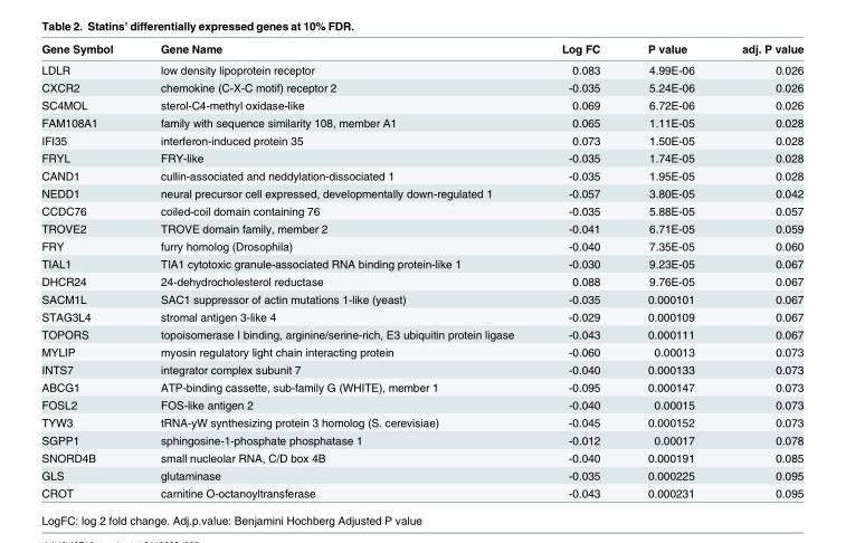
<table><thead><tr><td>Gene Symbol</td><td>Gene Name</td><td>Log FC</td><td>P value</td><td>adj. P value</td></tr></thead><tbody><tr><td>LDLR</td><td>low density lipoprotein receptor</td><td>0.083</td><td>4.99E-06</td><td>0.026</td></tr><tr><td>CXCR2</td><td>chemokine (C-X-C motif) receptor 2</td><td>-0.035</td><td>5.24E-06</td><td>0.026</td></tr><tr><td>SC4MOL</td><td>sterol-C4-methyl oxidase-like</td><td>0.069</td><td>6.72E-06</td><td>0.026</td></tr><tr><td>FAM108A1</td><td>family with sequence similarity 108, member A1</td><td>0.065</td><td>1.11E-05</td><td>0.028</td></tr><tr><td>IFI35</td><td>interferon-induced protein 35</td><td>0.073</td><td>1.50E-05</td><td>0.028</td></tr><tr><td>FRYL</td><td>FRY-like</td><td>-0.035</td><td>1.74E-05</td><td>0.028</td></tr><tr><td>CAND1</td><td>cullin-associated and neddylation-dissociated 1</td><td>-0.035</td><td>1.95E-05</td><td>0.028</td></tr><tr><td>NEDD1</td><td>neural precursor cell expressed, developmentally down-regulated 1</td><td>-0.057</td><td>3.80E-05</td><td>0.042</td></tr><tr><td>CCDC76</td><td>coiled-coil domain containing 76</td><td>-0.035</td><td>5.88E-05</td><td>0.057</td></tr><tr><td>TROVE2</td><td>TROVE domain family, member 2</td><td>-0.041</td><td>6.71E-05</td><td>0.059</td></tr><tr><td>FRY</td><td>furry homolog (Drosophila)</td><td>-0.040</td><td>7.35E-05</td><td>0.060</td></tr><tr><td>TIAL1</td><td>TIA1 cytotoxic granule-associated RNA binding protein-like 1</td><td>-0.030</td><td>9.23E-05</td><td>0.067</td></tr><tr><td>DHCR24</td><td>24-dehydrocholesterol reductase</td><td>0.088</td><td>9.76E-05</td><td>0.067</td></tr><tr><td>SACM1L</td><td>SAC1 suppressor of actin mutations 1-like (yeast)</td><td>-0.035</td><td>0.000101</td><td>0.067</td></tr><tr><td>STAG3L4</td><td>stromal antigen 3-like 4</td><td>-0.029</td><td>0.000109</td><td>0.067</td></tr><tr><td>TOPORS</td><td>topoisomerase I binding, arginine/serine-rich, E3 ubiquitin protein ligase</td><td>-0.043</td><td>0.000111</td><td>0.067</td></tr><tr><td>MYLIP</td><td>myosin regulatory light chain interacting protein</td><td>-0.060</td><td>0.00013</td><td>0.073</td></tr><tr><td>INTS7</td><td>integrator complex subunit 7</td><td>-0.040</td><td>0.000133</td><td>0.073</td></tr><tr><td>ABCG1</td><td>ATP-binding cassette, sub-family G (WHITE), member 1</td><td>-0.095</td><td>0.000147</td><td>0.073</td></tr><tr><td>FOSL2</td><td>FOS-like antigen 2</td><td>-0.040</td><td>0.00015</td><td>0.073</td></tr><tr><td>TYW3</td><td>tRNA-yW synthesizing protein 3 homolog (S. cerevisiae)</td><td>-0.045</td><td>0.000152</td><td>0.073</td></tr><tr><td>SGPP1</td><td>sphingosine-1-phosphate phosphatase 1</td><td>-0.012</td><td>0.00017</td><td>0.078</td></tr><tr><td>SNORD4B</td><td>small nucleolar RNA, C/D box 4B</td><td>-0.040</td><td>0.000191</td><td>0.085</td></tr><tr><td>GLS</td><td>glutaminase</td><td>-0.035</td><td>0.000225</td><td>0.095</td></tr><tr><td>CROT</td><td>carnitine O-octanoyltransferase</td><td>-0.043</td><td>0.000231</td><td>0.095</td></tr></tbody></table>